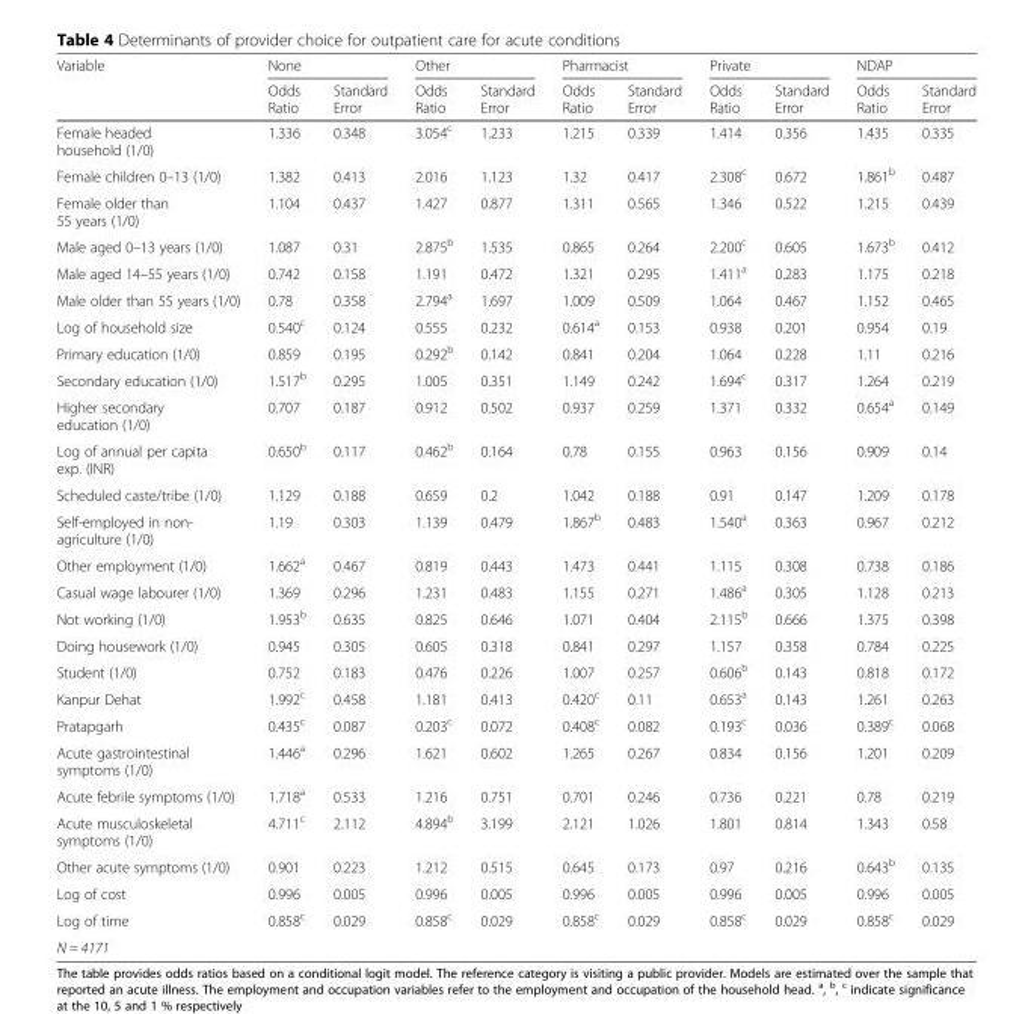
<table><thead><tr><td rowspan="2">Variable</td><td colspan="2">None</td><td colspan="2">Other</td><td colspan="2">Pharmacist</td><td colspan="2">Private</td><td colspan="2">NDAP</td></tr><tr><td>Odds Ratio</td><td>Standard Error</td><td>Odds Ratio</td><td>Standard Error</td><td>Odds Ratio</td><td>Standard Error</td><td>Odds Ratio</td><td>Standard Error</td><td>Odds Ratio</td><td>Standard Error</td></tr></thead><tbody><tr><td>Female headed household (1/0)</td><td>1.336</td><td>0.348</td><td>3.054<sup>c</sup></td><td>1.233</td><td>1.215</td><td>0.339</td><td>1.414</td><td>0.356</td><td>1.435</td><td>0.335</td></tr><tr><td>Female children 0–13 (1/0)</td><td>1.382</td><td>0.413</td><td>2.016</td><td>1.123</td><td>1.32</td><td>0.417</td><td>2.308<sup>c</sup></td><td>0.672</td><td>1.861<sup>b</sup></td><td>0.487</td></tr><tr><td>Female older than 55 years (1/0)</td><td>1.104</td><td>0.437</td><td>1.427</td><td>0.877</td><td>1.311</td><td>0.565</td><td>1.346</td><td>0.522</td><td>1.215</td><td>0.439</td></tr><tr><td>Male aged 0–13 years (1/0)</td><td>1.087</td><td>0.31</td><td>2.875<sup>b</sup></td><td>1.535</td><td>0.865</td><td>0.264</td><td>2.200<sup>c</sup></td><td>0.605</td><td>1.673<sup>b</sup></td><td>0.412</td></tr><tr><td>Male aged 14–55 years (1/0)</td><td>0.742</td><td>0.158</td><td>1.191</td><td>0.472</td><td>1.321</td><td>0.295</td><td>1.411<sup>a</sup></td><td>0.283</td><td>1.175</td><td>0.218</td></tr><tr><td>Male older than 55 years (1/0)</td><td>0.78</td><td>0.358</td><td>2.794<sup>a</sup></td><td>1.697</td><td>1.009</td><td>0.509</td><td>1.064</td><td>0.467</td><td>1.152</td><td>0.465</td></tr><tr><td>Log of household size</td><td>0.540<sup>c</sup></td><td>0.124</td><td>0.555</td><td>0.232</td><td>0.614<sup>a</sup></td><td>0.153</td><td>0.938</td><td>0.201</td><td>0.954</td><td>0.19</td></tr><tr><td>Primary education (1/0)</td><td>0.859</td><td>0.195</td><td>0.292<sup>b</sup></td><td>0.142</td><td>0.841</td><td>0.204</td><td>1.064</td><td>0.228</td><td>1.11</td><td>0.216</td></tr><tr><td>Secondary education (1/0)</td><td>1.517<sup>b</sup></td><td>0.295</td><td>1.005</td><td>0.351</td><td>1.149</td><td>0.242</td><td>1.694<sup>c</sup></td><td>0.317</td><td>1.264</td><td>0.219</td></tr><tr><td>Higher secondary education (1/0)</td><td>0.707</td><td>0.187</td><td>0.912</td><td>0.502</td><td>0.937</td><td>0.259</td><td>1.371</td><td>0.332</td><td>0.654<sup>a</sup></td><td>0.149</td></tr><tr><td>Log of annual per capita exp. (INR)</td><td>0.650<sup>b</sup></td><td>0.117</td><td>0.462<sup>b</sup></td><td>0.164</td><td>0.78</td><td>0.155</td><td>0.963</td><td>0.156</td><td>0.909</td><td>0.14</td></tr><tr><td>Scheduled caste/tribe (1/0)</td><td>1.129</td><td>0.188</td><td>0.659</td><td>0.2</td><td>1.042</td><td>0.188</td><td>0.91</td><td>0.147</td><td>1.209</td><td>0.178</td></tr><tr><td>Self-employed in non- agriculture (1/0)</td><td>1.19</td><td>0.303</td><td>1.139</td><td>0.479</td><td>1.867<sup>b</sup></td><td>0.483</td><td>1.540<sup>a</sup></td><td>0.363</td><td>0.967</td><td>0.212</td></tr><tr><td>Other employment (1/0)</td><td>1.662<sup>a</sup></td><td>0.467</td><td>0.819</td><td>0.443</td><td>1.473</td><td>0.441</td><td>1.115</td><td>0.308</td><td>0.738</td><td>0.186</td></tr><tr><td>Casual wage labourer (1/0)</td><td>1.369</td><td>0.296</td><td>1.231</td><td>0.483</td><td>1.155</td><td>0.271</td><td>1.486<sup>a</sup></td><td>0.305</td><td>1.128</td><td>0.213</td></tr><tr><td>Not working (1/0)</td><td>1.953<sup>b</sup></td><td>0.635</td><td>0.825</td><td>0.646</td><td>1.071</td><td>0.404</td><td>2.115<sup>b</sup></td><td>0.666</td><td>1.375</td><td>0.398</td></tr><tr><td>Doing housework (1/0)</td><td>0.945</td><td>0.305</td><td>0.605</td><td>0.318</td><td>0.841</td><td>0.297</td><td>1.157</td><td>0.358</td><td>0.784</td><td>0.225</td></tr><tr><td>Student (1/0)</td><td>0.752</td><td>0.183</td><td>0.476</td><td>0.226</td><td>1.007</td><td>0.257</td><td>0.606<sup>b</sup></td><td>0.143</td><td>0.818</td><td>0.172</td></tr><tr><td>Kanpur Dehat</td><td>1.992<sup>c</sup></td><td>0.458</td><td>1.181</td><td>0.413</td><td>0.420<sup>c</sup></td><td>0.11</td><td>0.653<sup>a</sup></td><td>0.143</td><td>1.261</td><td>0.263</td></tr><tr><td>Pratapgarh</td><td>0.435<sup>c</sup></td><td>0.087</td><td>0.203<sup>c</sup></td><td>0.072</td><td>0.408<sup>c</sup></td><td>0.082</td><td>0.193<sup>c</sup></td><td>0.036</td><td>0.389<sup>c</sup></td><td>0.068</td></tr><tr><td>Acute gastrointestinal symptoms (1/0)</td><td>1.446<sup>a</sup></td><td>0.296</td><td>1.621</td><td>0.602</td><td>1.265</td><td>0.267</td><td>0.834</td><td>0.156</td><td>1.201</td><td>0.209</td></tr><tr><td>Acute febrile symptoms (1/0)</td><td>1.718<sup>a</sup></td><td>0.533</td><td>1.216</td><td>0.751</td><td>0.701</td><td>0.246</td><td>0.736</td><td>0.221</td><td>0.78</td><td>0.219</td></tr><tr><td>Acute musculoskeletal symptoms (1/0)</td><td>4.711<sup>c</sup></td><td>2.112</td><td>4.894<sup>b</sup></td><td>3.199</td><td>2.121</td><td>1.026</td><td>1.801</td><td>0.814</td><td>1.343</td><td>0.58</td></tr><tr><td>Other acute symptoms (1/0)</td><td>0.901</td><td>0.223</td><td>1.212</td><td>0.515</td><td>0.645</td><td>0.173</td><td>0.97</td><td>0.216</td><td>0.643<sup>b</sup></td><td>0.135</td></tr><tr><td>Log of cost</td><td>0.996</td><td>0.005</td><td>0.996</td><td>0.005</td><td>0.996</td><td>0.005</td><td>0.996</td><td>0.005</td><td>0.996</td><td>0.005</td></tr><tr><td>Log of time</td><td>0.858<sup>c</sup></td><td>0.029</td><td>0.858<sup>c</sup></td><td>0.029</td><td>0.858<sup>c</sup></td><td>0.029</td><td>0.858<sup>c</sup></td><td>0.029</td><td>0.858<sup>c</sup></td><td>0.029</td></tr><tr><td>N = 4171</td><td></td><td></td><td></td><td></td><td></td><td></td><td></td><td></td><td></td><td></td></tr></tbody></table>